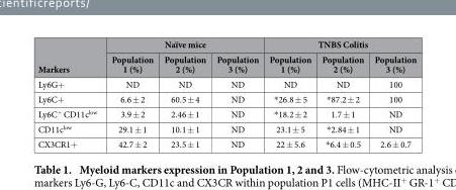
<table><thead><tr><td rowspan="2">Markers</td><td colspan="3">Naïve mice</td><td colspan="3">TNBS Colitis</td></tr><tr><td>Population 1 (%)</td><td>Population 2 (%)</td><td>Population 3 (%)</td><td>Population 1 (%)</td><td>Population 2 (%)</td><td>Population 3 (%)</td></tr></thead><tbody><tr><td>Ly6G+</td><td>ND</td><td>ND</td><td>ND</td><td>ND</td><td>ND</td><td>100</td></tr><tr><td>Ly6C+</td><td>6.6 ± 2</td><td>60.5 ± 4</td><td>ND</td><td>* 26.8 ± 5</td><td>* 87.2 ± 2</td><td>100</td></tr><tr><td>Ly6C<sup>+</sup> CD11c<sup>low</sup></td><td>3.9 ± 2</td><td>2.46 ± 1</td><td>ND</td><td>* 18.2 ± 2</td><td>1.7 ± 1</td><td>ND</td></tr><tr><td>CD11c<sup>low</sup></td><td>29.1 ± 1</td><td>10.1 ± 1</td><td>ND</td><td>23.1 ± 5</td><td>* 2.84 ± 1</td><td>ND</td></tr><tr><td>CX3CR1+</td><td>42.7 ± 2</td><td>23.5 ± 1</td><td>ND</td><td>22 ± 5.6</td><td>* 6.4 ± 0.5</td><td>2.6 ± 0.7</td></tr></tbody></table>